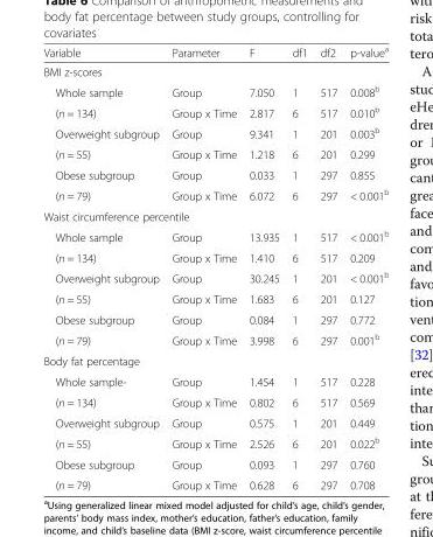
<table><thead><tr><td>Variable</td><td>Parameter</td><td>F</td><td>df1</td><td>df2</td><td>p-value<sup>a</sup></td></tr></thead><tbody><tr><td colspan="6">BMI z-scores</td></tr><tr><td>Whole sample</td><td>Group</td><td>7.050</td><td>1</td><td>517</td><td>0.008<sup>b</sup></td></tr><tr><td>(n = 134)</td><td>Group x Time</td><td>2.817</td><td>6</td><td>517</td><td>0.010<sup>b</sup></td></tr><tr><td>Overweight subgroup</td><td>Group</td><td>9.341</td><td>1</td><td>201</td><td>0.003<sup>b</sup></td></tr><tr><td>(n = 55)</td><td>Group x Time</td><td>1.218</td><td>6</td><td>201</td><td>0.299</td></tr><tr><td>Obese subgroup</td><td>Group</td><td>0.033</td><td>1</td><td>297</td><td>0.855</td></tr><tr><td>(n = 79)</td><td>Group x Time</td><td>6.072</td><td>6</td><td>297</td><td>&lt; 0.001<sup>b</sup></td></tr><tr><td colspan="6">Waist circumference percentile</td></tr><tr><td>Whole sample</td><td>Group</td><td>13.935</td><td>1</td><td>517</td><td>&lt; 0.001<sup>b</sup></td></tr><tr><td>(n = 134)</td><td>Group x Time</td><td>1.410</td><td>6</td><td>517</td><td>0.209</td></tr><tr><td>Overweight subgroup</td><td>Group</td><td>30.245</td><td>1</td><td>201</td><td>&lt; 0.001<sup>b</sup></td></tr><tr><td>(n = 55)</td><td>Group x Time</td><td>1.683</td><td>6</td><td>201</td><td>0.127</td></tr><tr><td>Obese subgroup</td><td>Group</td><td>0.084</td><td>1</td><td>297</td><td>0.772</td></tr><tr><td>(n = 79)</td><td>Group x Time</td><td>3.998</td><td>6</td><td>297</td><td>0.001<sup>b</sup></td></tr><tr><td colspan="6">Body fat percentage</td></tr><tr><td>Whole sample-</td><td>Group</td><td>1.454</td><td>1</td><td>517</td><td>0.228</td></tr><tr><td>(n = 134)</td><td>Group x Time</td><td>0.802</td><td>6</td><td>517</td><td>0.569</td></tr><tr><td>Overweight subgroup</td><td>Group</td><td>0.575</td><td>1</td><td>201</td><td>0.449</td></tr><tr><td>(n = 55)</td><td>Group x Time</td><td>2.526</td><td>6</td><td>201</td><td>0.022<sup>b</sup></td></tr><tr><td>Obese subgroup</td><td>Group</td><td>0.093</td><td>1</td><td>297</td><td>0.760</td></tr><tr><td>(n = 79)</td><td>Group x Time</td><td>0.628</td><td>6</td><td>297</td><td>0.708</td></tr></tbody></table>